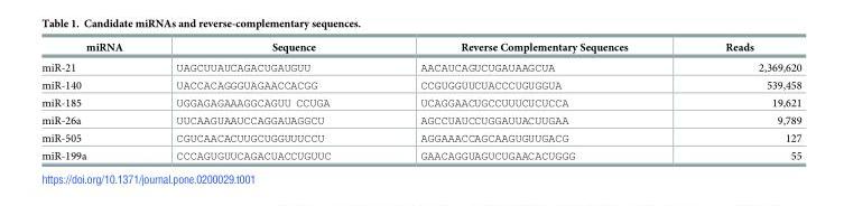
<table><thead><tr><td>miRNA</td><td>Sequence</td><td>Reverse Complementary Sequences</td><td>Reads</td></tr></thead><tbody><tr><td>miR-21</td><td>UAGCUUAUCAGACUGAUGUU</td><td>AACAUCAGUCUGAUAAGCUA</td><td>2,369,620</td></tr><tr><td>miR-140</td><td>UACCACAGGGUAGAACCACGG</td><td>CCGUGGUUCUACCCUGUGGUA</td><td>539,458</td></tr><tr><td>miR-185</td><td>UGGAGAGAAAGGCAGUU CCUGA</td><td>UCAGGAACUGCCUUUCUCUCCA</td><td>19,621</td></tr><tr><td>miR-26a</td><td>UUCAAGUAAUCCAGGAUAGGCU</td><td>AGCCUAUCCUGGAUUACUUGAA</td><td>9,789</td></tr><tr><td>miR-505</td><td>CGUCAACACUUGCUGGUUUCCU</td><td>AGGAAACCAGCAAGUGUUGACG</td><td>127</td></tr><tr><td>miR-199a</td><td>CCCAGUGUUCAGACUACCUGUUC</td><td>GAACAGGUAGUCUGAACACUGGG</td><td>55</td></tr></tbody></table>